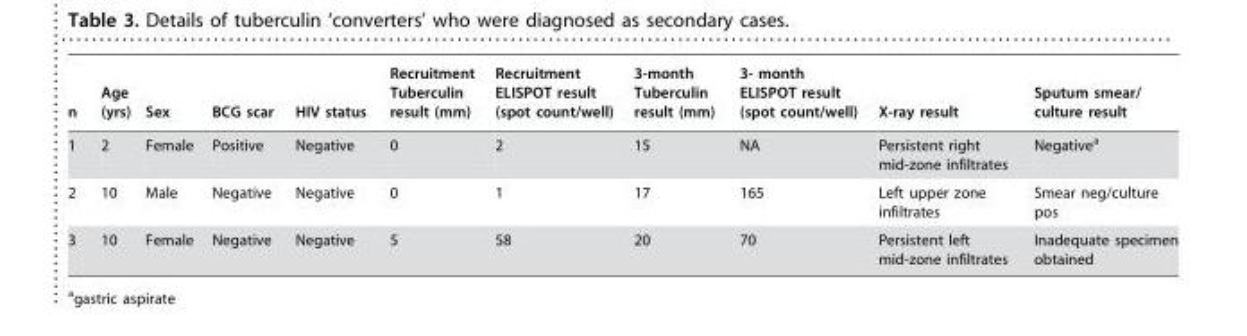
<table><thead><tr><td>n</td><td>Age (yrs)</td><td>Sex</td><td>BCG scar</td><td>HIV status</td><td>Recruitment Tuberculin result (mm)</td><td>Recruitment ELISPOT result (spot count/well)</td><td>3-month Tuberculin result (mm)</td><td>3- month ELISPOT result (spot count/well)</td><td>X-ray result</td><td>Sputum smear/ culture result</td></tr></thead><tbody><tr><td>1</td><td>2</td><td>Female</td><td>Positive</td><td>Negative</td><td>0</td><td>2</td><td>15</td><td>NA</td><td>Persistent right mid-zone infiltrates</td><td>Negative<sup>a</sup></td></tr><tr><td>2</td><td>10</td><td>Male</td><td>Negative</td><td>Negative</td><td>0</td><td>1</td><td>17</td><td>165</td><td>Left upper zone infiltrates</td><td>Smear neg/culture pos</td></tr><tr><td>3</td><td>10</td><td>Female</td><td>Negative</td><td>Negative</td><td>5</td><td>58</td><td>20</td><td>70</td><td>Persistent left mid-zone infiltrates</td><td>Inadequate specimen obtained</td></tr></tbody></table>